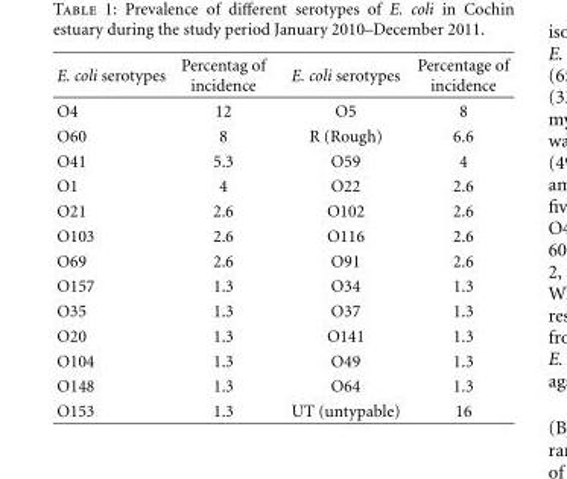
<table><thead><tr><td>E. coli serotypes</td><td>Percentag of incidence</td><td>E. coli serotypes</td><td>Percentage of incidence</td></tr></thead><tbody><tr><td>O4</td><td>12</td><td>O5</td><td>8</td></tr><tr><td>O60</td><td>8</td><td>R (Rough)</td><td>6.6</td></tr><tr><td>O41</td><td>5.3</td><td>O59</td><td>4</td></tr><tr><td>O1</td><td>4</td><td>O22</td><td>2.6</td></tr><tr><td>O21</td><td>2.6</td><td>O102</td><td>2.6</td></tr><tr><td>O103</td><td>2.6</td><td>O116</td><td>2.6</td></tr><tr><td>O69</td><td>2.6</td><td>O91</td><td>2.6</td></tr><tr><td>O157</td><td>1.3</td><td>O34</td><td>1.3</td></tr><tr><td>O35</td><td>1.3</td><td>O37</td><td>1.3</td></tr><tr><td>O20</td><td>1.3</td><td>O141</td><td>1.3</td></tr><tr><td>O104</td><td>1.3</td><td>O49</td><td>1.3</td></tr><tr><td>O148</td><td>1.3</td><td>O64</td><td>1.3</td></tr><tr><td>O153</td><td>1.3</td><td>UT (untypable)</td><td>16</td></tr></tbody></table>